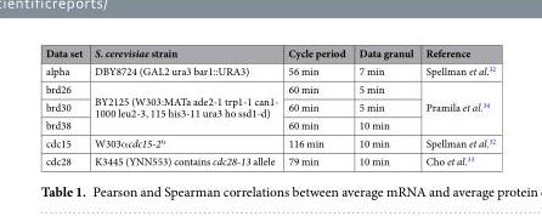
<table><thead><tr><td>Data set</td><td>S. cerevisiae strain</td><td>Cycle period</td><td>Data granul</td><td>Reference</td></tr></thead><tbody><tr><td>alpha</td><td>DBY8724 (GAL2 ura3 bar1::URA3)</td><td>56 min</td><td>7 min</td><td>Spellman et al.<sup>32</sup></td></tr><tr><td>brd26</td><td rowspan="3">BY2125 (W303:MATa ade2-1 trp1-1 can1- 1000 leu2-3, 115 his3-11 ura3 ho ssd1-d)</td><td>60 min</td><td>5 min</td><td rowspan="3">Pramila et al.<sup>34</sup></td></tr><tr><td>brd30</td><td>60 min</td><td>5 min</td></tr><tr><td>brd38</td><td>60 min</td><td>10 min</td></tr><tr><td>cdc15</td><td>W303αcdc15-2<sup>ts</sup></td><td>116 min</td><td>10 min</td><td>Spellman et al.<sup>32</sup></td></tr><tr><td>cdc28</td><td>K3445 (YNN553) contains cdc28-13 allele</td><td>79 min</td><td>10 min</td><td>Cho et al.<sup>33</sup></td></tr></tbody></table>